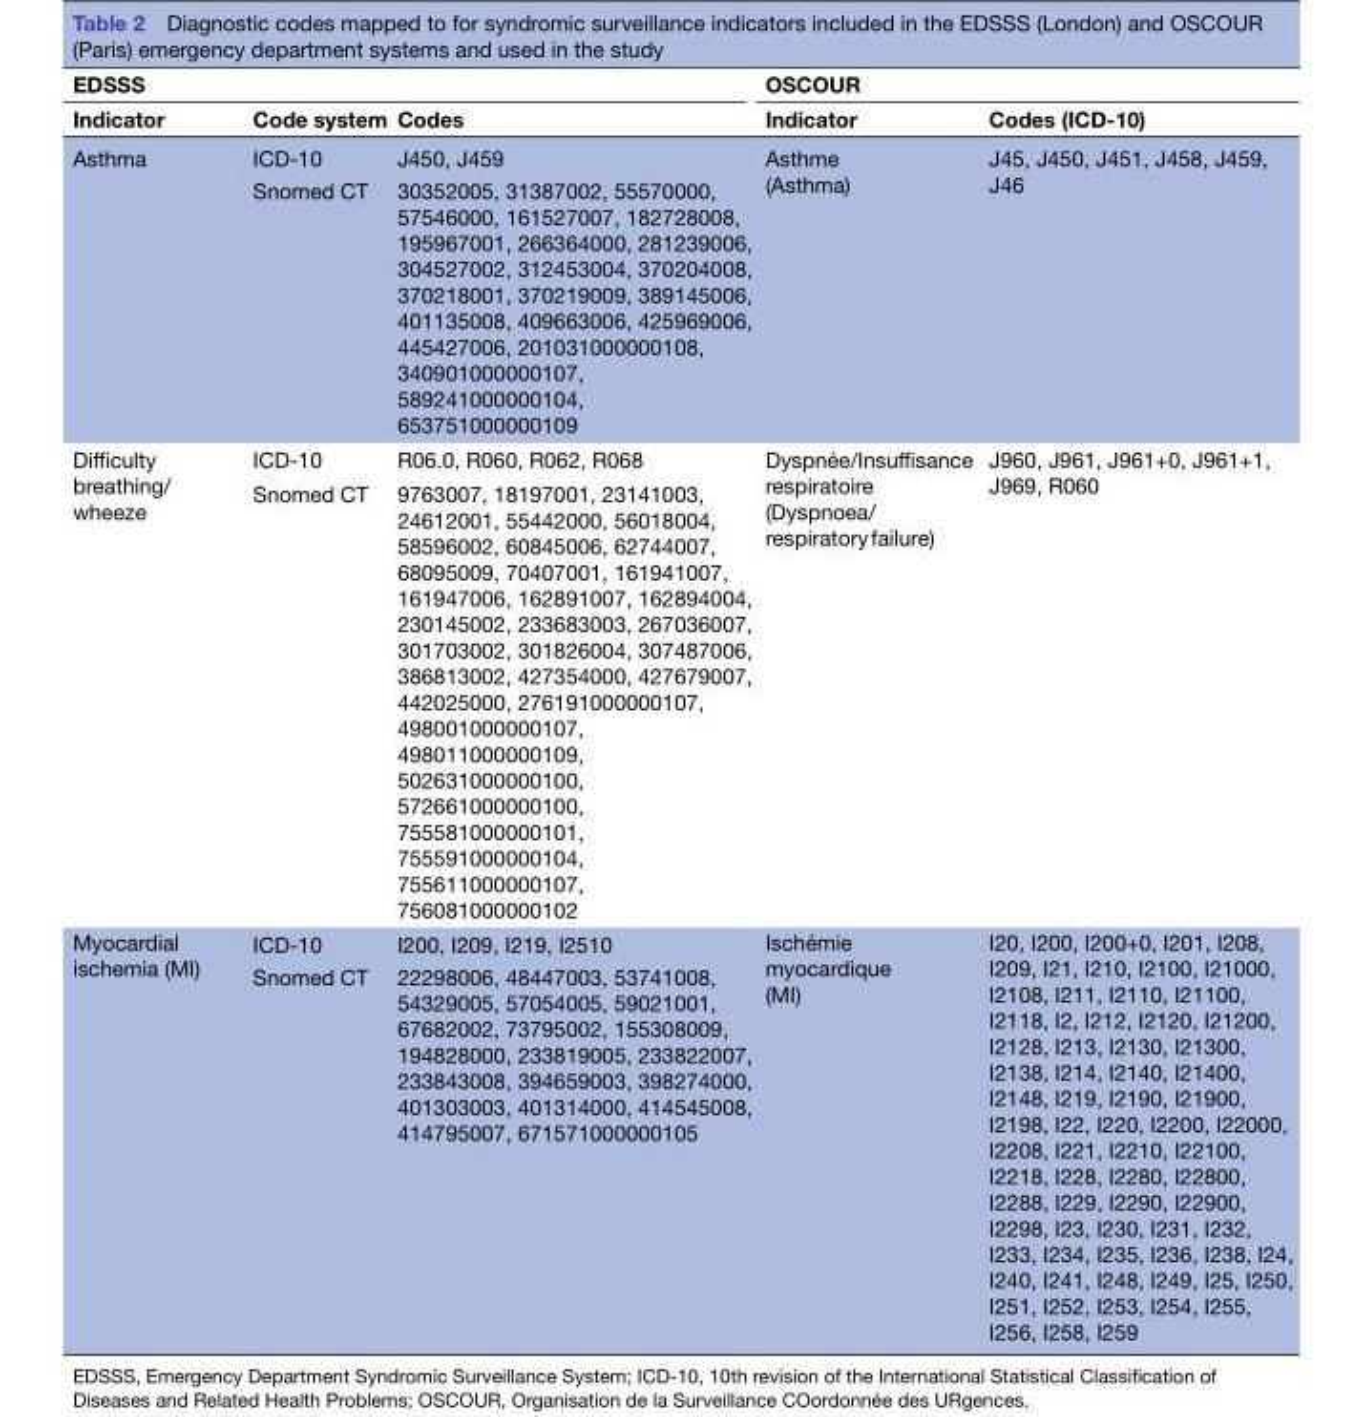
<table><thead><tr><td colspan="3">EDSSS</td><td colspan="2">OSCOUR</td></tr><tr><td>Indicator</td><td>Code system</td><td>Codes</td><td>Indicator</td><td>Codes (ICD-10)</td></tr></thead><tbody><tr><td rowspan="2">Asthma</td><td>ICD-10</td><td>J450, J459</td><td rowspan="2">Asthme (Asthma)</td><td rowspan="2">J45, J450, J451, J458, J459, J46</td></tr><tr><td>Snomed CT</td><td>30352005, 31387002, 55570000, 57546000, 161527007, 182728008, 195967001, 266364000, 281239006, 304527002, 312453004, 370204008, 370218001, 370219009, 389145006, 401135008, 409663006, 425969006, 445427006, 201031000000108, 340901000000107, 589241000000104, 653751000000109</td></tr><tr><td rowspan="2">Difficulty breathing/ wheeze</td><td>ICD-10</td><td>R06.0, R060, R062, R068</td><td rowspan="2">Dyspnée/Insuffisance respiratoire (Dyspnoea/ respiratory failure)</td><td rowspan="2">J960, J961, J961+0, J961+1, J969, R060</td></tr><tr><td>Snomed CT</td><td>9763007, 18197001, 23141003, 24612001, 55442000, 56018004, 58596002, 60845006, 62744007, 68095009, 70407001, 161941007, 161947006, 162891007, 162894004, 230145002, 233683003, 267036007, 301703002, 301826004, 307487006, 386813002, 427354000, 427679007, 442025000, 276191000000107, 498001000000107, 498011000000109, 502631000000100, 572661000000100, 755581000000101, 755591000000104, 755611000000107, 756081000000102</td></tr><tr><td rowspan="2">Myocardial ischemia (MI)</td><td>ICD-10</td><td>I200, I209, I219, I2510</td><td rowspan="2">Ischémie myocardique (MI)</td><td rowspan="2">I20, I200, I200+0, I201, I208, I209, I21, I210, I2100, I21000, I2108, I211, I2110, I21100, I2118, I2, I212, I2120, I21200, I2128, I213, I2130, I21300, I2138, I214, I2140, I21400, I2148, I219, I2190, I21900, I2198, I22, I220, I2200, I22000, I2208, I221, I2210, I22100, I2218, I228, I2280, I22800, I2288, I229, I2290, I22900, I2298, I23, I230, I231, I232, I233, I234, I235, I236, I238, I24, I240, I241, I248, I249, I25, I250, I251, I252, I253, I254, I255, I256, I258, I259</td></tr><tr><td>Snomed CT</td><td>22298006, 48447003, 53741008, 54329005, 57054005, 59021001, 67682002, 73795002, 155308009, 194828000, 233819005, 233822007, 233843008, 394659003, 398274000, 401303003, 401314000, 414545008, 414795007, 671571000000105</td></tr></tbody></table>